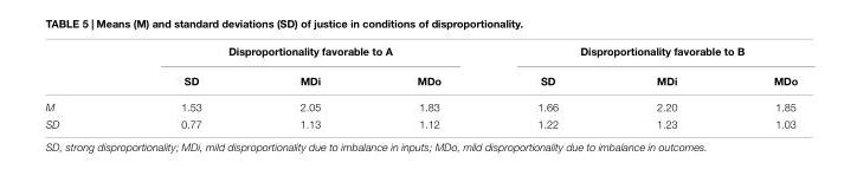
<table><thead><tr><td rowspan="2"></td><td colspan="3">Disproportionality favorable to A</td><td colspan="3">Disproportionality favorable to B</td></tr><tr><td>SD</td><td>MDi</td><td>MDo</td><td>SD</td><td>MDi</td><td>MDo</td></tr></thead><tbody><tr><td>M</td><td>1.53</td><td>2.05</td><td>1.83</td><td>1.66</td><td>2.20</td><td>1.85</td></tr><tr><td>SD</td><td>0.77</td><td>1.13</td><td>1.12</td><td>1.22</td><td>1.23</td><td>1.03</td></tr></tbody></table>